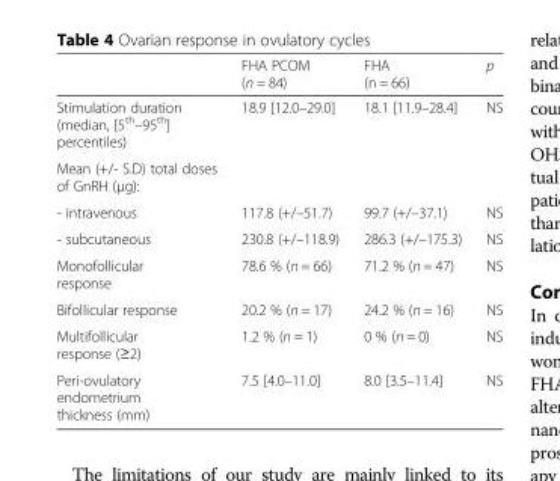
<table><thead><tr><td></td><td>FHA PCOM (n = 84)</td><td>FHA (n = 66)</td><td>p</td></tr></thead><tbody><tr><td>Stimulation duration (median, [5<sup>th</sup>–95<sup>th</sup>] percentiles)</td><td>18.9 [12.0–29.0]</td><td>18.1 [11.9–28.4]</td><td>NS</td></tr><tr><td colspan="4">Mean (+/- S.D) total doses of GnRH (μg):</td></tr><tr><td>- intravenous</td><td>117.8 (+/–51.7)</td><td>99.7 (+/–37.1)</td><td>NS</td></tr><tr><td>- subcutaneous</td><td>230.8 (+/–118.9)</td><td>286.3 (+/–175.3)</td><td>NS</td></tr><tr><td>Monofollicular response</td><td>78.6 % (n = 66)</td><td>71.2 % (n = 47)</td><td>NS</td></tr><tr><td>Bifollicular response</td><td>20.2 % (n = 17)</td><td>24.2 % (n = 16)</td><td>NS</td></tr><tr><td>Multifollicular response (≥2)</td><td>1.2 % (n = 1)</td><td>0 % (n = 0)</td><td>NS</td></tr><tr><td>Peri-ovulatory endometrium thickness (mm)</td><td>7.5 [4.0–11.0]</td><td>8.0 [3.5–11.4]</td><td>NS</td></tr></tbody></table>